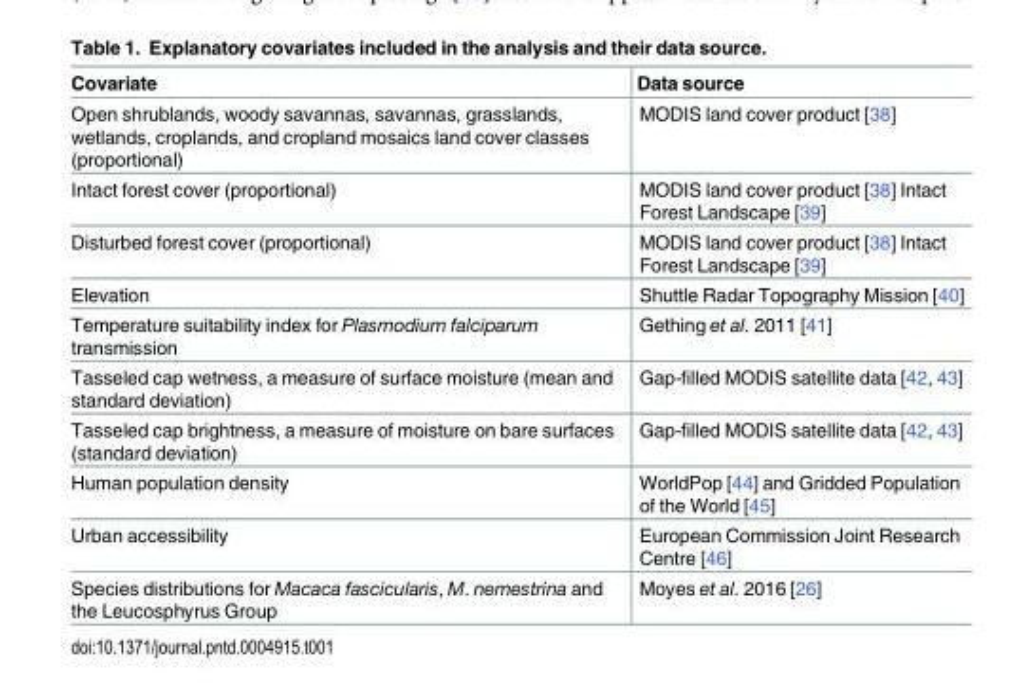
<table><thead><tr><td>Covariate</td><td>Data source</td></tr></thead><tbody><tr><td>Open shrublands, woody savannas, savannas, grasslands, wetlands, croplands, and cropland mosaics land cover classes (proportional)</td><td>MODIS land cover product [38]</td></tr><tr><td>Intact forest cover (proportional)</td><td>MODIS land cover product [38] Intact Forest Landscape [39]</td></tr><tr><td>Disturbed forest cover (proportional)</td><td>MODIS land cover product [38] Intact Forest Landscape [39]</td></tr><tr><td>Elevation</td><td>Shuttle Radar Topography Mission [40]</td></tr><tr><td>Temperature suitability index for Plasmodium falciparum transmission</td><td>Gething et al. 2011 [41]</td></tr><tr><td>Tasseled cap wetness, a measure of surface moisture (mean and standard deviation)</td><td>Gap-filled MODIS satellite data [42, 43]</td></tr><tr><td>Tasseled cap brightness, a measure of moisture on bare surfaces (standard deviation)</td><td>Gap-filled MODIS satellite data [42, 43]</td></tr><tr><td>Human population density</td><td>WorldPop [44] and Gridded Population of the World [45]</td></tr><tr><td>Urban accessibility</td><td>European Commission Joint Research Centre [46]</td></tr><tr><td>Species distributions for Macaca fascicularis, M. nemestrina and the Leucosphyrus Group</td><td>Moyes et al. 2016 [26]</td></tr></tbody></table>